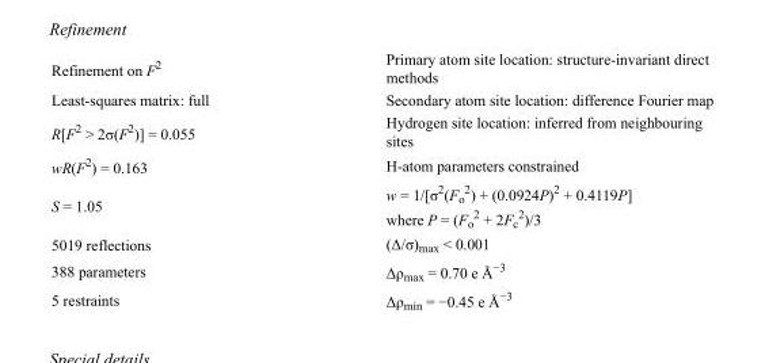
<table><tbody><tr><td>Refinement on F<sup>2</sup></td><td>Primary atom site location: structure-invariant direct methods</td></tr><tr><td>Least-squares matrix: full</td><td>Secondary atom site location: difference Fourier map</td></tr><tr><td>R[F<sup>2</sup> &gt; 2σ(F<sup>2</sup>)] = 0.055</td><td>Hydrogen site location: inferred from neighbouring sites</td></tr><tr><td>wR(F<sup>2</sup>) = 0.163</td><td>H-atom parameters constrained</td></tr><tr><td>S = 1.05</td><td>w = 1/[σ<sup>2</sup>(F<sub>o</sub> <sup>2</sup>) + (0.0924P)<sup>2</sup> + 0.4119P] where P = (F<sub>o</sub> <sup>2</sup> + 2F<sub>c</sub> <sup>2</sup>)/3</td></tr><tr><td>5019 reflections</td><td>(Δ/σ)<sub>max</sub> &lt; 0.001</td></tr><tr><td>388 parameters</td><td>Δρ<sub>max</sub> = 0.70 e Å<sup>−3</sup></td></tr><tr><td>5 restraints</td><td>Δρ<sub>min</sub> = −0.45 e Å<sup>−3</sup></td></tr></tbody></table>